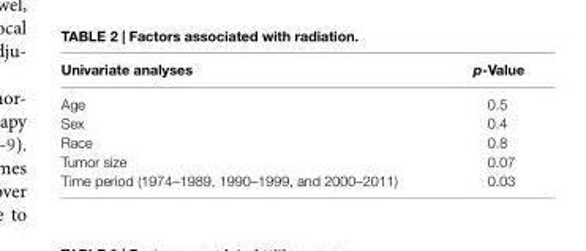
<table><thead><tr><td>Univariate analyses</td><td>p-Value</td></tr></thead><tbody><tr><td>Age</td><td>0.5</td></tr><tr><td>Sex</td><td>0.4</td></tr><tr><td>Race</td><td>0.8</td></tr><tr><td>Tumor size</td><td>0.07</td></tr><tr><td>Time period (1974–1989, 1990–1999, and 2000–2011)</td><td>0.03</td></tr></tbody></table>